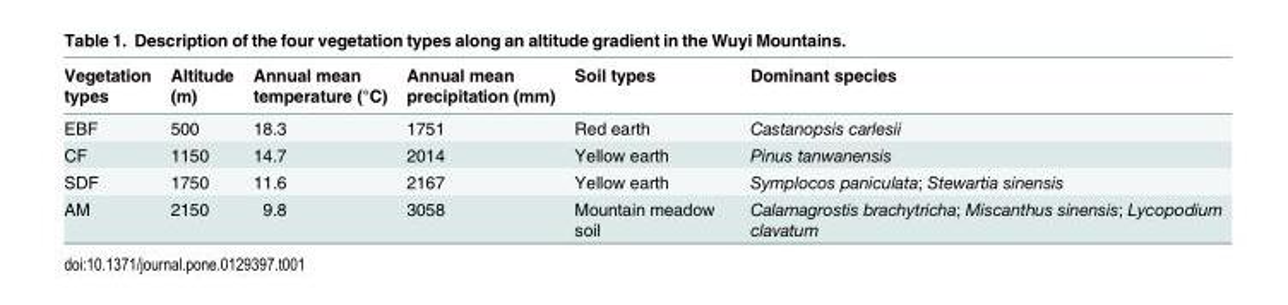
<table><thead><tr><td>Vegetation types</td><td>Altitude (m)</td><td>Annual mean temperature (°C)</td><td>Annual mean precipitation (mm)</td><td>Soil types</td><td>Dominant species</td></tr></thead><tbody><tr><td>EBF</td><td>500</td><td>18.3</td><td>1751</td><td>Red earth</td><td>Castanopsis carlesii</td></tr><tr><td>CF</td><td>1150</td><td>14.7</td><td>2014</td><td>Yellow earth</td><td>Pinus tanwanensis</td></tr><tr><td>SDF</td><td>1750</td><td>11.6</td><td>2167</td><td>Yellow earth</td><td>Symplocos paniculata; Stewartia sinensis</td></tr><tr><td>AM</td><td>2150</td><td>9.8</td><td>3058</td><td>Mountain meadow soil</td><td>Calamagrostis brachytricha; Miscanthus sinensis; Lycopodium clavatum</td></tr></tbody></table>